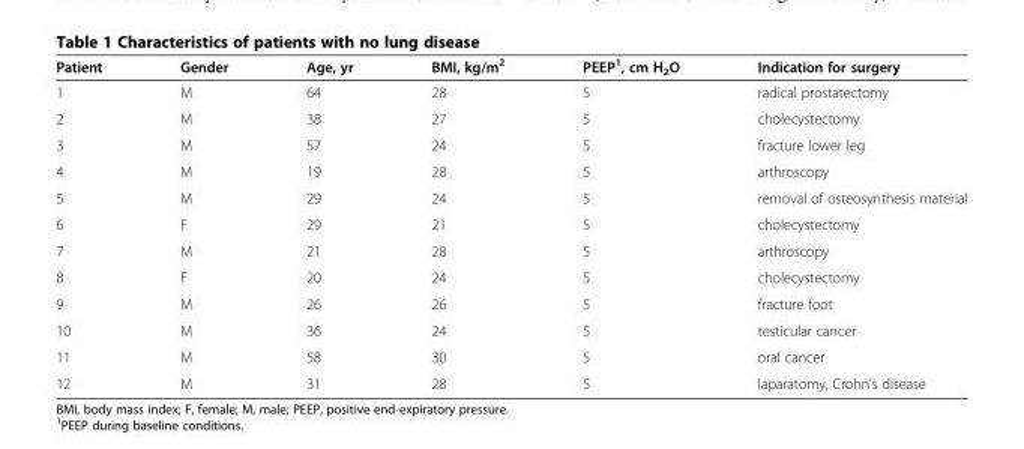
<table><thead><tr><td>Patient</td><td>Gender</td><td>Age, yr</td><td>BMI, kg/m<sup>2</sup></td><td>PEEP<sup>1</sup>, cm H<sub>2</sub>O</td><td>Indication for surgery</td></tr></thead><tbody><tr><td>1</td><td>M</td><td>64</td><td>28</td><td>5</td><td>radical prostatectomy</td></tr><tr><td>2</td><td>M</td><td>38</td><td>27</td><td>5</td><td>cholecystectomy</td></tr><tr><td>3</td><td>M</td><td>57</td><td>24</td><td>5</td><td>fracture lower leg</td></tr><tr><td>4</td><td>M</td><td>19</td><td>28</td><td>5</td><td>arthroscopy</td></tr><tr><td>5</td><td>M</td><td>29</td><td>24</td><td>5</td><td>removal of osteosynthesis material</td></tr><tr><td>6</td><td>F</td><td>29</td><td>21</td><td>5</td><td>cholecystectomy</td></tr><tr><td>7</td><td>M</td><td>21</td><td>28</td><td>5</td><td>arthroscopy</td></tr><tr><td>8</td><td>F</td><td>20</td><td>24</td><td>5</td><td>cholecystectomy</td></tr><tr><td>9</td><td>M</td><td>26</td><td>26</td><td>5</td><td>fracture foot</td></tr><tr><td>10</td><td>M</td><td>36</td><td>24</td><td>5</td><td>testicular cancer</td></tr><tr><td>11</td><td>M</td><td>58</td><td>30</td><td>5</td><td>oral cancer</td></tr><tr><td>12</td><td>M</td><td>31</td><td>28</td><td>5</td><td>laparatomy, Crohn’s disease</td></tr></tbody></table>